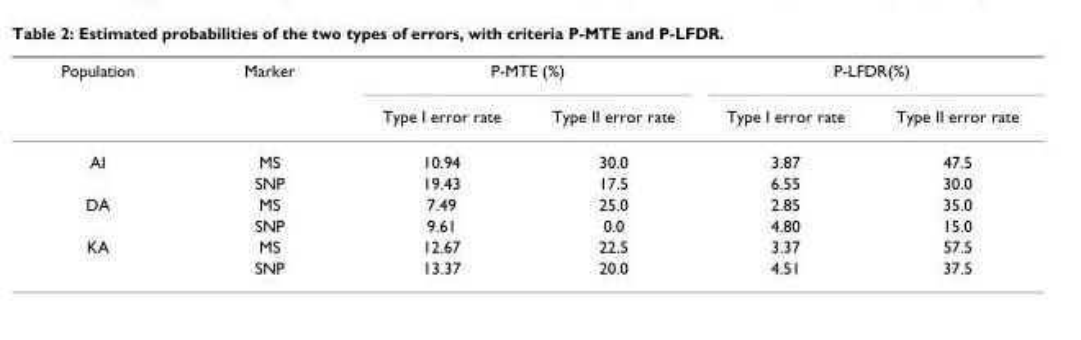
<table><thead><tr><td rowspan="2">Population</td><td rowspan="2">Marker</td><td colspan="2">P-MTE (%)</td><td colspan="2">P-LFDR(%)</td></tr><tr><td>Type I error rate</td><td>Type II error rate</td><td>Type I error rate</td><td>Type II error rate</td></tr></thead><tbody><tr><td rowspan="2">AI</td><td>MS</td><td>10.94</td><td>30.0</td><td>3.87</td><td>47.5</td></tr><tr><td>SNP</td><td>19.43</td><td>17.5</td><td>6.55</td><td>30.0</td></tr><tr><td rowspan="2">DA</td><td>MS</td><td>7.49</td><td>25.0</td><td>2.85</td><td>35.0</td></tr><tr><td>SNP</td><td>9.61</td><td>0.0</td><td>4.80</td><td>15.0</td></tr><tr><td rowspan="2">KA</td><td>MS</td><td>12.67</td><td>22.5</td><td>3.37</td><td>57.5</td></tr><tr><td>SNP</td><td>13.37</td><td>20.0</td><td>4.51</td><td>37.5</td></tr></tbody></table>